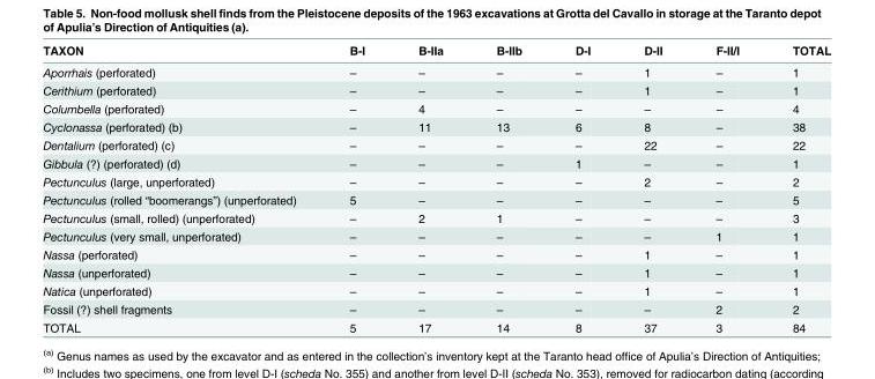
<table><thead><tr><td>TAXON</td><td>B-I</td><td>B-IIa</td><td>B-IIb</td><td>D-I</td><td>D-II</td><td>F-II/I</td><td>TOTAL</td></tr></thead><tbody><tr><td>Aporrhais (perforated)</td><td>–</td><td>–</td><td>–</td><td>–</td><td>1</td><td>–</td><td>1</td></tr><tr><td>Cerithium (perforated)</td><td>–</td><td>–</td><td>–</td><td>–</td><td>1</td><td>–</td><td>1</td></tr><tr><td>Columbella (perforated)</td><td>–</td><td>4</td><td>–</td><td>–</td><td>–</td><td>–</td><td>4</td></tr><tr><td>Cyclonassa (perforated) (b)</td><td>–</td><td>11</td><td>13</td><td>6</td><td>8</td><td>–</td><td>38</td></tr><tr><td>Dentalium (perforated) (c)</td><td>–</td><td>–</td><td>–</td><td>–</td><td>22</td><td>–</td><td>22</td></tr><tr><td>Gibbula (?) (perforated) (d)</td><td>–</td><td>–</td><td>–</td><td>1</td><td>–</td><td>–</td><td>1</td></tr><tr><td>Pectunculus (large, unperforated)</td><td>–</td><td>–</td><td>–</td><td>–</td><td>2</td><td>–</td><td>2</td></tr><tr><td>Pectunculus (rolled “boomerangs”) (unperforated)</td><td>5</td><td>–</td><td>–</td><td>–</td><td>–</td><td>–</td><td>5</td></tr><tr><td>Pectunculus (small, rolled) (unperforated)</td><td>–</td><td>2</td><td>1</td><td>–</td><td>–</td><td>–</td><td>3</td></tr><tr><td>Pectunculus (very small, unperforated)</td><td>–</td><td>–</td><td>–</td><td>–</td><td>–</td><td>1</td><td>1</td></tr><tr><td>Nassa (perforated)</td><td>–</td><td>–</td><td>–</td><td>–</td><td>1</td><td>–</td><td>1</td></tr><tr><td>Nassa (unperforated)</td><td>–</td><td>–</td><td>–</td><td>–</td><td>1</td><td>–</td><td>1</td></tr><tr><td>Natica (unperforated)</td><td>–</td><td>–</td><td>–</td><td>–</td><td>1</td><td>–</td><td>1</td></tr><tr><td>Fossil (?) shell fragments</td><td>–</td><td>–</td><td>–</td><td>–</td><td>–</td><td>2</td><td>2</td></tr><tr><td>TOTAL</td><td>5</td><td>17</td><td>14</td><td>8</td><td>37</td><td>3</td><td>84</td></tr></tbody></table>